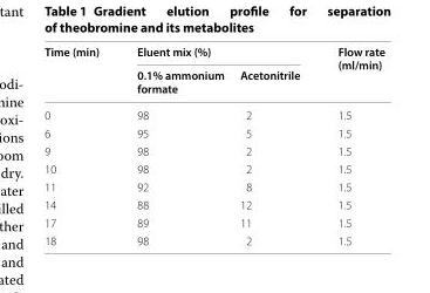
<table><thead><tr><td rowspan="2">Time (min)</td><td colspan="2">Eluent mix (%)</td><td rowspan="2">Flow rate (ml/min)</td></tr><tr><td>0.1% ammonium formate</td><td>Acetonitrile</td></tr></thead><tbody><tr><td>0</td><td>98</td><td>2</td><td>1.5</td></tr><tr><td>6</td><td>95</td><td>5</td><td>1.5</td></tr><tr><td>9</td><td>98</td><td>2</td><td>1.5</td></tr><tr><td>10</td><td>98</td><td>2</td><td>1.5</td></tr><tr><td>11</td><td>92</td><td>8</td><td>1.5</td></tr><tr><td>14</td><td>88</td><td>12</td><td>1.5</td></tr><tr><td>17</td><td>89</td><td>11</td><td>1.5</td></tr><tr><td>18</td><td>98</td><td>2</td><td>1.5</td></tr></tbody></table>